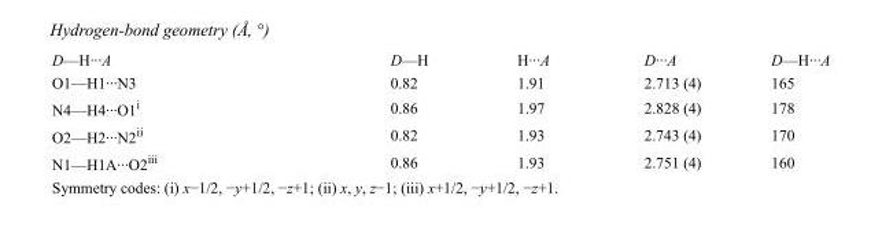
<table><tbody><tr><td>D—H···A</td><td>D—H</td><td>H···A</td><td>D···A</td><td>D—H···A</td></tr><tr><td>O1—H1···N3</td><td>0.82</td><td>1.91</td><td>2.713 (4)</td><td>165</td></tr><tr><td>N4—H4···O1<sup>i</sup></td><td>0.86</td><td>1.97</td><td>2.828 (4)</td><td>178</td></tr><tr><td>O2—H2···N2<sup>ii</sup></td><td>0.82</td><td>1.93</td><td>2.743 (4)</td><td>170</td></tr><tr><td>N1—H1A···O2<sup>iii</sup></td><td>0.86</td><td>1.93</td><td>2.751 (4)</td><td>160</td></tr></tbody></table>